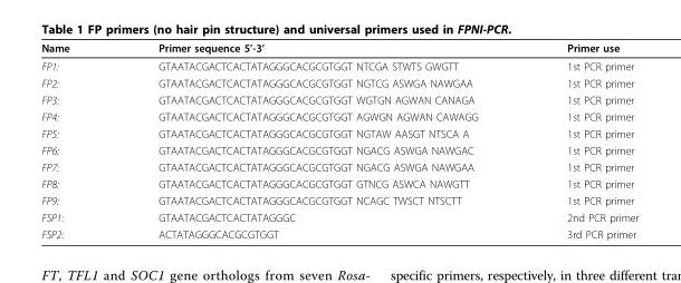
<table><thead><tr><td>Name</td><td>Primer sequence 5’-3’</td><td>Primer use</td></tr></thead><tbody><tr><td>FP1:</td><td>GTAATACGACTCACTATAGGGCACGCGTGGT NTCGA STWTS GWGTT</td><td>1st PCR primer</td></tr><tr><td>FP2:</td><td>GTAATACGACTCACTATAGGGCACGCGTGGT NGTCG ASWGA NAWGAA</td><td>1st PCR primer</td></tr><tr><td>FP3:</td><td>GTAATACGACTCACTATAGGGCACGCGTGGT WGTGN AGWAN CANAGA</td><td>1st PCR primer</td></tr><tr><td>FP4:</td><td>GTAATACGACTCACTATAGGGCACGCGTGGT AGWGN AGWAN CAWAGG</td><td>1st PCR primer</td></tr><tr><td>FP5:</td><td>GTAATACGACTCACTATAGGGCACGCGTGGT NGTAW AASGT NTSCA A</td><td>1st PCR primer</td></tr><tr><td>FP6:</td><td>GTAATACGACTCACTATAGGGCACGCGTGGT NGACG ASWGA NAWGAC</td><td>1st PCR primer</td></tr><tr><td>FP7:</td><td>GTAATACGACTCACTATAGGGCACGCGTGGT NGACG ASWGA NAWGAA</td><td>1st PCR primer</td></tr><tr><td>FP8:</td><td>GTAATACGACTCACTATAGGGCACGCGTGGT GTNCG ASWCA NAWGTT</td><td>1st PCR primer</td></tr><tr><td>FP9:</td><td>GTAATACGACTCACTATAGGGCACGCGTGGT NCAGC TWSCT NTSCTT</td><td>1st PCR primer</td></tr><tr><td>FSP1:</td><td>GTAATACGACTCACTATAGGGC</td><td>2nd PCR primer</td></tr><tr><td>FSP2:</td><td>ACTATAGGGCACGCGTGGT</td><td>3rd PCR primer</td></tr></tbody></table>